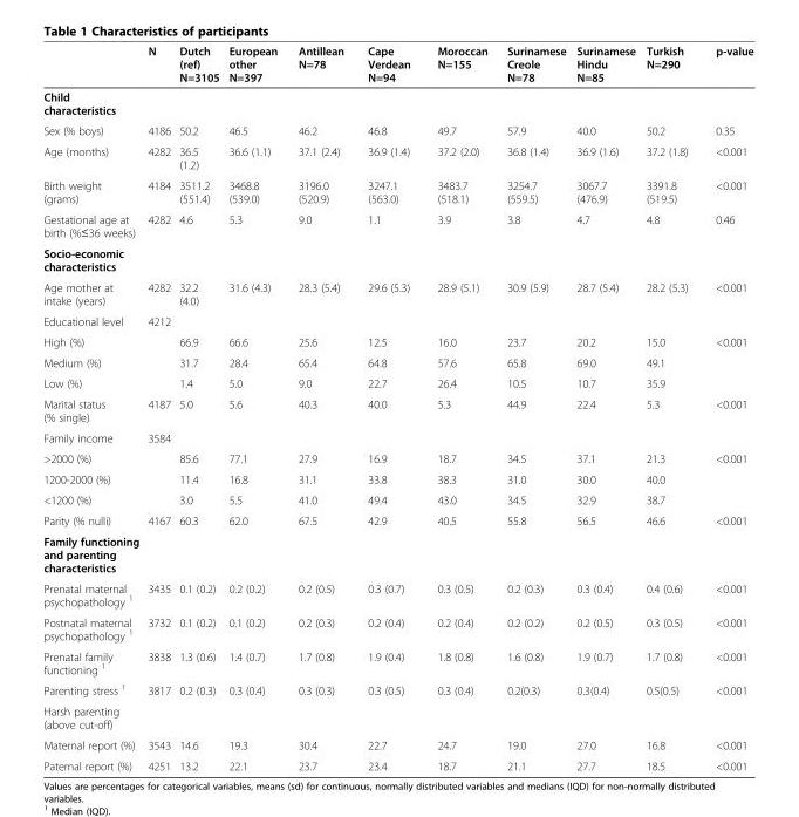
<table><thead><tr><td></td><td>N</td><td>Dutch (ref) N=3105</td><td>European other N=397</td><td>Antillean N=78</td><td>Cape Verdean N=94</td><td>Moroccan N=155</td><td>Surinamese Creole N=78</td><td>Surinamese Hindu N=85</td><td>Turkish N=290</td><td>p-value</td></tr></thead><tbody><tr><td colspan="11">Child characteristics</td></tr><tr><td>Sex (% boys)</td><td>4186</td><td>50.2</td><td>46.5</td><td>46.2</td><td>46.8</td><td>49.7</td><td>57.9</td><td>40.0</td><td>50.2</td><td>0.35</td></tr><tr><td>Age (months)</td><td>4282</td><td>36.5 (1.2)</td><td>36.6 (1.1)</td><td>37.1 (2.4)</td><td>36.9 (1.4)</td><td>37.2 (2.0)</td><td>36.8 (1.4)</td><td>36.9 (1.6)</td><td>37.2 (1.8)</td><td>&lt;0.001</td></tr><tr><td>Birth weight (grams)</td><td>4184</td><td>3511.2 (551.4)</td><td>3468.8 (539.0)</td><td>3196.0 (520.9)</td><td>3247.1 (563.0)</td><td>3483.7 (518.1)</td><td>3254.7 (559.5)</td><td>3067.7 (476.9)</td><td>3391.8 (519.5)</td><td>&lt;0.001</td></tr><tr><td>Gestational age at birth (%≤36 weeks)</td><td>4282</td><td>4.6</td><td>5.3</td><td>9.0</td><td>1.1</td><td>3.9</td><td>3.8</td><td>4.7</td><td>4.8</td><td>0.46</td></tr><tr><td colspan="11">Socio-economic characteristics</td></tr><tr><td>Age mother at intake (years)</td><td>4282</td><td>32.2 (4.0)</td><td>31.6 (4.3)</td><td>28.3 (5.4)</td><td>29.6 (5.3)</td><td>28.9 (5.1)</td><td>30.9 (5.9)</td><td>28.7 (5.4)</td><td>28.2 (5.3)</td><td>&lt;0.001</td></tr><tr><td>Educational level</td><td>4212</td><td></td><td></td><td></td><td></td><td></td><td></td><td></td><td></td><td></td></tr><tr><td>High (%)</td><td></td><td>66.9</td><td>66.6</td><td>25.6</td><td>12.5</td><td>16.0</td><td>23.7</td><td>20.2</td><td>15.0</td><td>&lt;0.001</td></tr><tr><td>Medium (%)</td><td></td><td>31.7</td><td>28.4</td><td>65.4</td><td>64.8</td><td>57.6</td><td>65.8</td><td>69.0</td><td>49.1</td><td></td></tr><tr><td>Low (%)</td><td></td><td>1.4</td><td>5.0</td><td>9.0</td><td>22.7</td><td>26.4</td><td>10.5</td><td>10.7</td><td>35.9</td><td></td></tr><tr><td>Marital status (% single)</td><td>4187</td><td>5.0</td><td>5.6</td><td>40.3</td><td>40.0</td><td>5.3</td><td>44.9</td><td>22.4</td><td>5.3</td><td>&lt;0.001</td></tr><tr><td>Family income</td><td>3584</td><td></td><td></td><td></td><td></td><td></td><td></td><td></td><td></td><td></td></tr><tr><td>&gt;2000 (%)</td><td></td><td>85.6</td><td>77.1</td><td>27.9</td><td>16.9</td><td>18.7</td><td>34.5</td><td>37.1</td><td>21.3</td><td>&lt;0.001</td></tr><tr><td>1200-2000 (%)</td><td></td><td>11.4</td><td>16.8</td><td>31.1</td><td>33.8</td><td>38.3</td><td>31.0</td><td>30.0</td><td>40.0</td><td></td></tr><tr><td>&lt;1200 (%)</td><td></td><td>3.0</td><td>5.5</td><td>41.0</td><td>49.4</td><td>43.0</td><td>34.5</td><td>32.9</td><td>38.7</td><td></td></tr><tr><td>Parity (% nulli)</td><td>4167</td><td>60.3</td><td>62.0</td><td>67.5</td><td>42.9</td><td>40.5</td><td>55.8</td><td>56.5</td><td>46.6</td><td>&lt;0.001</td></tr><tr><td colspan="11">Family functioning and parenting characteristics</td></tr><tr><td>Prenatal maternal psychopathology <sup>1</sup></td><td>3435</td><td>0.1 (0.2)</td><td>0.2 (0.2)</td><td>0.2 (0.5)</td><td>0.3 (0.7)</td><td>0.3 (0.5)</td><td>0.2 (0.3)</td><td>0.3 (0.4)</td><td>0.4 (0.6)</td><td>&lt;0.001</td></tr><tr><td>Postnatal maternal psychopathology <sup>1</sup></td><td>3732</td><td>0.1 (0.2)</td><td>0.1 (0.2)</td><td>0.2 (0.3)</td><td>0.2 (0.4)</td><td>0.2 (0.4)</td><td>0.2 (0.2)</td><td>0.2 (0.5)</td><td>0.3 (0.5)</td><td>&lt;0.001</td></tr><tr><td>Prenatal family functioning <sup>1</sup></td><td>3838</td><td>1.3 (0.6)</td><td>1.4 (0.7)</td><td>1.7 (0.8)</td><td>1.9 (0.4)</td><td>1.8 (0.8)</td><td>1.6 (0.8)</td><td>1.9 (0.7)</td><td>1.7 (0.8)</td><td>&lt;0.001</td></tr><tr><td>Parenting stress <sup>1</sup></td><td>3817</td><td>0.2 (0.3)</td><td>0.3 (0.4)</td><td>0.3 (0.3)</td><td>0.3 (0.5)</td><td>0.3 (0.4)</td><td>0.2(0.3)</td><td>0.3(0.4)</td><td>0.5(0.5)</td><td>&lt;0.001</td></tr><tr><td colspan="11">Harsh parenting (above cut-off)</td></tr><tr><td>Maternal report (%)</td><td>3543</td><td>14.6</td><td>19.3</td><td>30.4</td><td>22.7</td><td>24.7</td><td>19.0</td><td>27.0</td><td>16.8</td><td>&lt;0.001</td></tr><tr><td>Paternal report (%)</td><td>4251</td><td>13.2</td><td>22.1</td><td>23.7</td><td>23.4</td><td>18.7</td><td>21.1</td><td>27.7</td><td>18.5</td><td>&lt;0.001</td></tr></tbody></table>